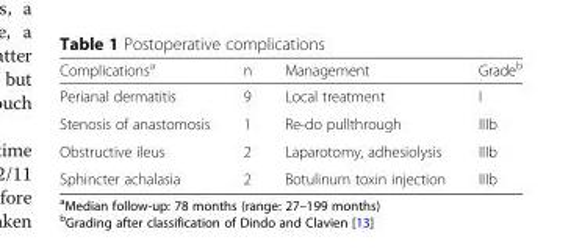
<table><thead><tr><td>Complications<sup>a</sup></td><td>n</td><td>Management</td><td>Grade<sup>b</sup></td></tr></thead><tbody><tr><td>Perianal dermatitis</td><td>9</td><td>Local treatment</td><td>I</td></tr><tr><td>Stenosis of anastomosis</td><td>1</td><td>Re-do pullthrough</td><td>IIIb</td></tr><tr><td>Obstructive ileus</td><td>2</td><td>Laparotomy, adhesiolysis</td><td>IIIb</td></tr><tr><td>Sphincter achalasia</td><td>2</td><td>Botulinum toxin injection</td><td>IIIb</td></tr></tbody></table>